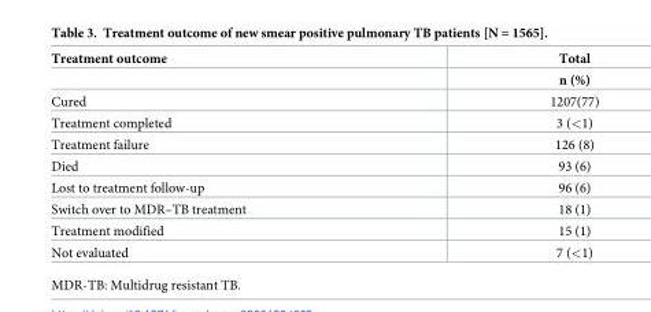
<table><thead><tr><td rowspan="2">Treatment outcome</td><td rowspan="2">Total n (%)</td></tr><tr></tr></thead><tbody><tr><td>Cured</td><td>1207(77)</td></tr><tr><td>Treatment completed</td><td>3 (&lt;1)</td></tr><tr><td>Treatment failure</td><td>126 (8)</td></tr><tr><td>Died</td><td>93 (6)</td></tr><tr><td>Lost to treatment follow-up</td><td>96 (6)</td></tr><tr><td>Switch over to MDR–TB treatment</td><td>18 (1)</td></tr><tr><td>Treatment modified</td><td>15 (1)</td></tr><tr><td>Not evaluated</td><td>7 (&lt;1)</td></tr></tbody></table>